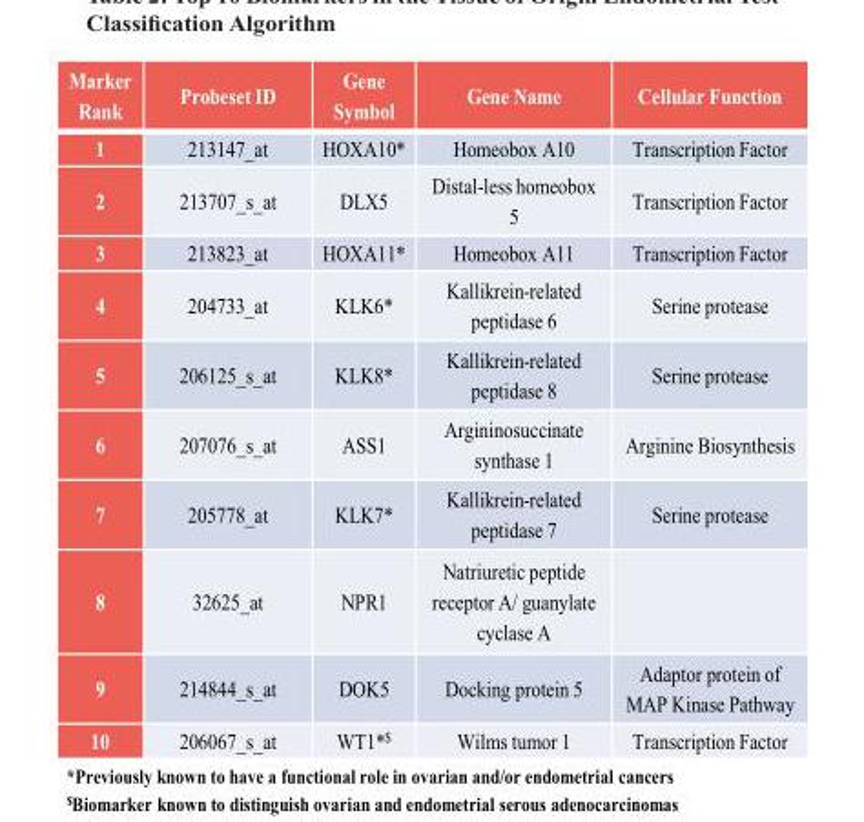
<table><thead><tr><td>Marker Rank</td><td>Probeset ID</td><td>Gene Symbol</td><td>Gene Name</td><td>Cellular Function</td></tr></thead><tbody><tr><td>1</td><td>213147_at</td><td>HOXA10*</td><td>Homeobox A10</td><td>Transcription Factor</td></tr><tr><td>2</td><td>213707_s_at</td><td>DLX5</td><td>Distal-less homeobox 5</td><td>Transcription Factor</td></tr><tr><td>3</td><td>213823_at</td><td>HOXA11*</td><td>Homeobox A11</td><td>Transcription Factor</td></tr><tr><td>4</td><td>204733_at</td><td>KLK6*</td><td>Kallikrein-related peptidase 6</td><td>Serine protease</td></tr><tr><td>5</td><td>206125_s_at</td><td>KLK8*</td><td>Kallikrein-related peptidase 8</td><td>Serine protease</td></tr><tr><td>6</td><td>207076_s_at</td><td>ASS1</td><td>Argininosuccinate synthase 1</td><td>Arginine Biosynthesis</td></tr><tr><td>7</td><td>205778_at</td><td>KLK7*</td><td>Kallikrein-related peptidase 7</td><td>Serine protease</td></tr><tr><td>8</td><td>32625_at</td><td>NPR1</td><td>Natriuretic peptide receptor A/ guanylate cyclase A</td><td></td></tr><tr><td>9</td><td>214844_s_at</td><td>DOK5</td><td>Docking protein 5</td><td>Adaptor protein of MAP Kinase Pathway</td></tr><tr><td>10</td><td>206067_s_at</td><td>WT1*<sup>$</sup></td><td>Wilms tumor 1</td><td>Transcription Factor</td></tr></tbody></table>